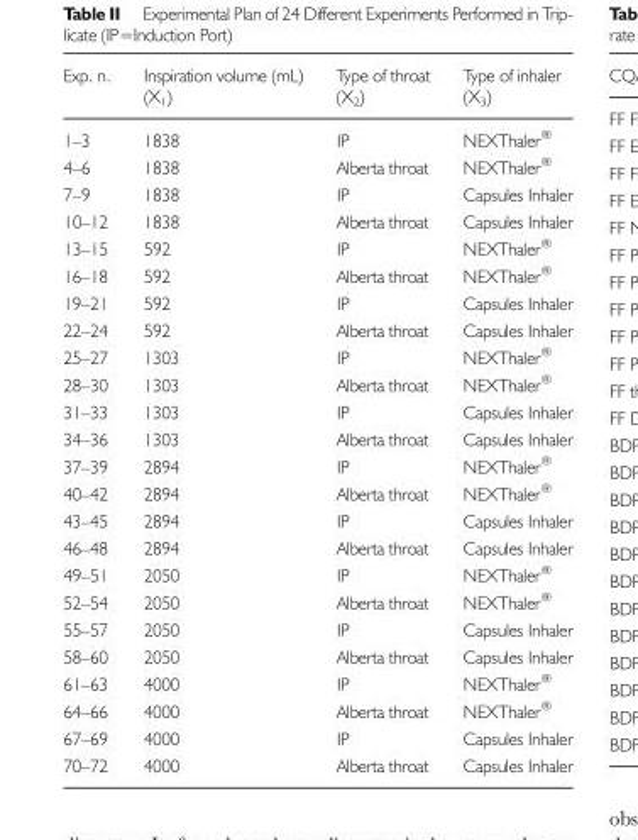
<table><thead><tr><td>Exp. n.</td><td>Inspiration volume (mL) (X<sub>1</sub>)</td><td>Type of throat (X<sub>2</sub>)</td><td>Type of inhaler (X<sub>3</sub>)</td></tr></thead><tbody><tr><td>1–3</td><td>1838</td><td>IP</td><td>NEXThaler<sup>®</sup></td></tr><tr><td>4–6</td><td>1838</td><td>Alberta throat</td><td>NEXThaler<sup>®</sup></td></tr><tr><td>7–9</td><td>1838</td><td>IP</td><td>Capsules Inhaler</td></tr><tr><td>10–12</td><td>1838</td><td>Alberta throat</td><td>Capsules Inhaler</td></tr><tr><td>13–15</td><td>592</td><td>IP</td><td>NEXThaler<sup>®</sup></td></tr><tr><td>16–18</td><td>592</td><td>Alberta throat</td><td>NEXThaler<sup>®</sup></td></tr><tr><td>19–21</td><td>592</td><td>IP</td><td>Capsules Inhaler</td></tr><tr><td>22–24</td><td>592</td><td>Alberta throat</td><td>Capsules Inhaler</td></tr><tr><td>25–27</td><td>1303</td><td>IP</td><td>NEXThaler<sup>®</sup></td></tr><tr><td>28–30</td><td>1303</td><td>Alberta throat</td><td>NEXThaler<sup>®</sup></td></tr><tr><td>31–33</td><td>1303</td><td>IP</td><td>Capsules Inhaler</td></tr><tr><td>34–36</td><td>1303</td><td>Alberta throat</td><td>Capsules Inhaler</td></tr><tr><td>37–39</td><td>2894</td><td>IP</td><td>NEXThaler<sup>®</sup></td></tr><tr><td>40–42</td><td>2894</td><td>Alberta throat</td><td>NEXThaler<sup>®</sup></td></tr><tr><td>43–45</td><td>2894</td><td>IP</td><td>Capsules Inhaler</td></tr><tr><td>46–48</td><td>2894</td><td>Alberta throat</td><td>Capsules Inhaler</td></tr><tr><td>49–51</td><td>2050</td><td>IP</td><td>NEXThaler<sup>®</sup></td></tr><tr><td>52–54</td><td>2050</td><td>Alberta throat</td><td>NEXThaler<sup>®</sup></td></tr><tr><td>55–57</td><td>2050</td><td>IP</td><td>Capsules Inhaler</td></tr><tr><td>58–60</td><td>2050</td><td>Alberta throat</td><td>Capsules Inhaler</td></tr><tr><td>61–63</td><td>4000</td><td>IP</td><td>NEXThaler<sup>®</sup></td></tr><tr><td>64–66</td><td>4000</td><td>Alberta throat</td><td>NEXThaler<sup>®</sup></td></tr><tr><td>67–69</td><td>4000</td><td>IP</td><td>Capsules Inhaler</td></tr><tr><td>70–72</td><td>4000</td><td>Alberta throat</td><td>Capsules Inhaler</td></tr></tbody></table>